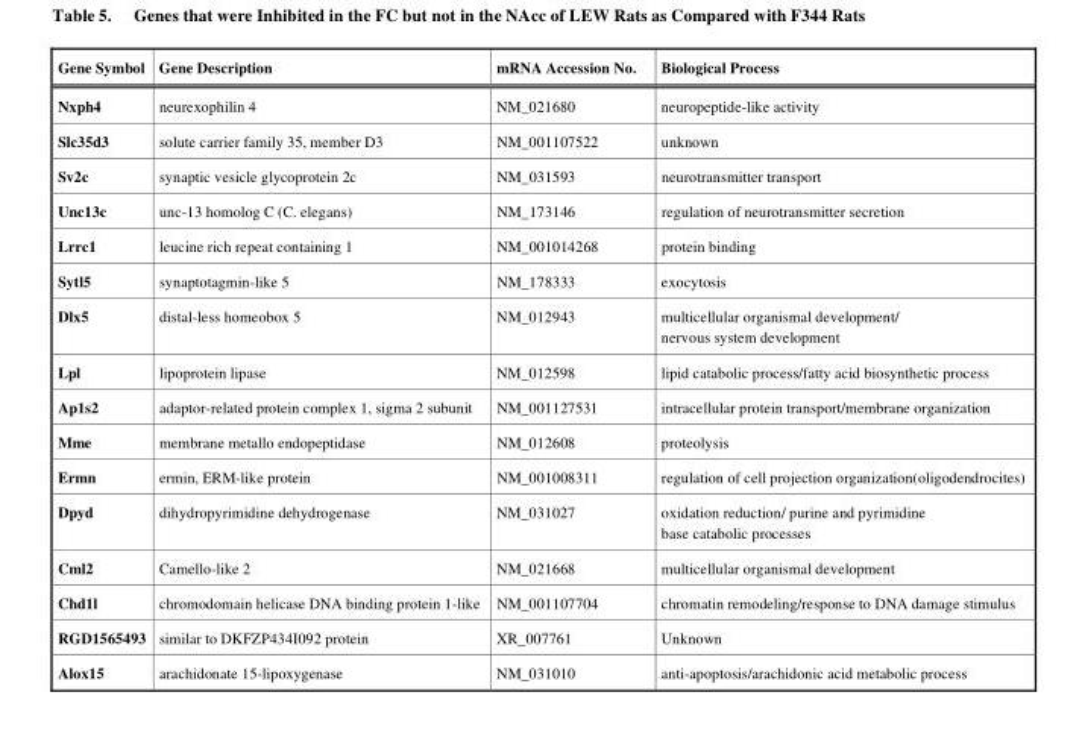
<table><thead><tr><td>Gene Symbol</td><td>Gene Description</td><td>mRNA Accession No.</td><td>Biological Process</td></tr></thead><tbody><tr><td>Nxph4</td><td>neurexophilin 4</td><td>NM_021680</td><td>neuropeptide-like activity</td></tr><tr><td>Slc35d3</td><td>solute carrier family 35, member D3</td><td>NM_001107522</td><td>unknown</td></tr><tr><td>Sv2c</td><td>synaptic vesicle glycoprotein 2c</td><td>NM_031593</td><td>neurotransmitter transport</td></tr><tr><td>Unc13c</td><td>unc-13 homolog C (C. elegans)</td><td>NM_173146</td><td>regulation of neurotransmitter secretion</td></tr><tr><td>Lrrc1</td><td>leucine rich repeat containing 1</td><td>NM_001014268</td><td>protein binding</td></tr><tr><td>Sytl5</td><td>synaptotagmin-like 5</td><td>NM_178333</td><td>exocytosis</td></tr><tr><td>Dlx5</td><td>distal-less homeobox 5</td><td>NM_012943</td><td>multicellular organismal development/ nervous system development</td></tr><tr><td>Lpl</td><td>lipoprotein lipase</td><td>NM_012598</td><td>lipid catabolic process/fatty acid biosynthetic process</td></tr><tr><td>Ap1s2</td><td>adaptor-related protein complex 1, sigma 2 subunit</td><td>NM_001127531</td><td>intracellular protein transport/membrane organization</td></tr><tr><td>Mme</td><td>membrane metallo endopeptidase</td><td>NM_012608</td><td>proteolysis</td></tr><tr><td>Ermn</td><td>ermin, ERM-like protein</td><td>NM_001008311</td><td>regulation of cell projection organization(oligodendrocites)</td></tr><tr><td>Dpyd</td><td>dihydropyrimidine dehydrogenase</td><td>NM_031027</td><td>oxidation reduction/ purine and pyrimidine base catabolic processes</td></tr><tr><td>Cml2</td><td>Camello-like 2</td><td>NM_021668</td><td>multicellular organismal development</td></tr><tr><td>Chd1l</td><td>chromodomain helicase DNA binding protein 1-like</td><td>NM_001107704</td><td>chromatin remodeling/response to DNA damage stimulus</td></tr><tr><td>RGD1565493</td><td>similar to DKFZP434I092 protein</td><td>XR_007761</td><td>Unknown</td></tr><tr><td>Alox15</td><td>arachidonate 15-lipoxygenase</td><td>NM_031010</td><td>anti-apoptosis/arachidonic acid metabolic process</td></tr></tbody></table>